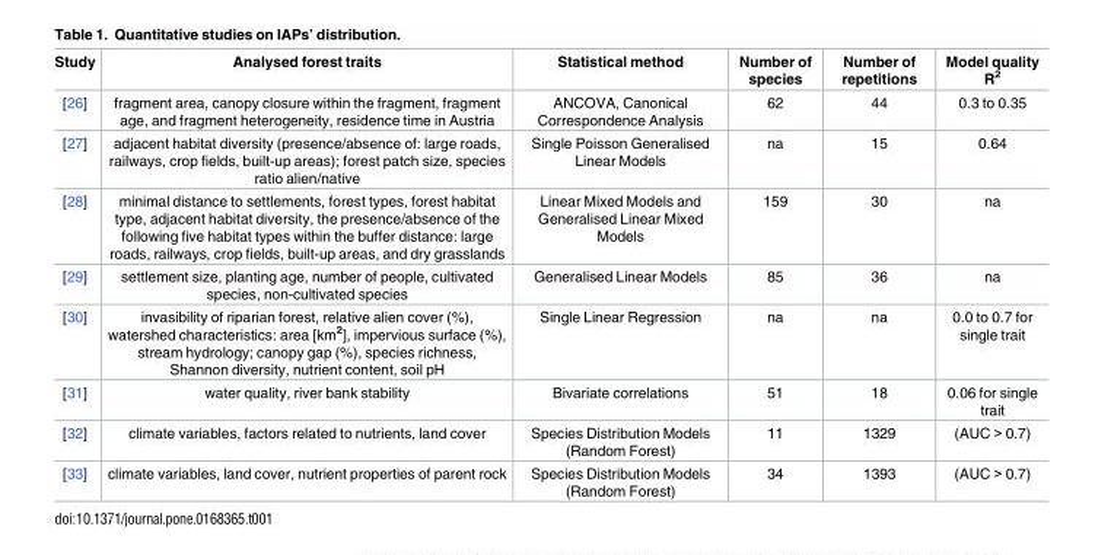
<table><thead><tr><td>Study</td><td>Analysed forest traits</td><td>Statistical method</td><td>Number of species</td><td>Number of repetitions</td><td>Model quality R<sup>2</sup></td></tr></thead><tbody><tr><td>[26]</td><td>fragment area, canopy closure within the fragment, fragment age, and fragment heterogeneity, residence time in Austria</td><td>ANCOVA, Canonical Correspondence Analysis</td><td>62</td><td>44</td><td>0.3 to 0.35</td></tr><tr><td>[27]</td><td>adjacent habitat diversity (presence/absence of: large roads, railways, crop fields, built-up areas); forest patch size, species ratio alien/native</td><td>Single Poisson Generalised Linear Models</td><td>na</td><td>15</td><td>0.64</td></tr><tr><td>[28]</td><td>minimal distance to settlements, forest types, forest habitat type, adjacent habitat diversity, the presence/absence of the following five habitat types within the buffer distance: large roads, railways, crop fields, built-up areas, and dry grasslands</td><td>Linear Mixed Models and Generalised Linear Mixed Models</td><td>159</td><td>30</td><td>na</td></tr><tr><td>[29]</td><td>settlement size, planting age, number of people, cultivated species, non-cultivated species</td><td>Generalised Linear Models</td><td>85</td><td>36</td><td>na</td></tr><tr><td>[30]</td><td>invasibility of riparian forest, relative alien cover (%), watershed characteristics: area [km<sup>2</sup>], impervious surface (%), stream hydrology; canopy gap (%), species richness, Shannon diversity, nutrient content, soil pH</td><td>Single Linear Regression</td><td>na</td><td>na</td><td>0.0 to 0.7 for single trait</td></tr><tr><td>[31]</td><td>water quality, river bank stability</td><td>Bivariate correlations</td><td>51</td><td>18</td><td>0.06 for single trait</td></tr><tr><td>[32]</td><td>climate variables, factors related to nutrients, land cover</td><td>Species Distribution Models (Random Forest)</td><td>11</td><td>1329</td><td>(AUC &gt; 0.7)</td></tr><tr><td>[33]</td><td>climate variables, land cover, nutrient properties of parent rock</td><td>Species Distribution Models (Random Forest)</td><td>34</td><td>1393</td><td>(AUC &gt; 0.7)</td></tr></tbody></table>